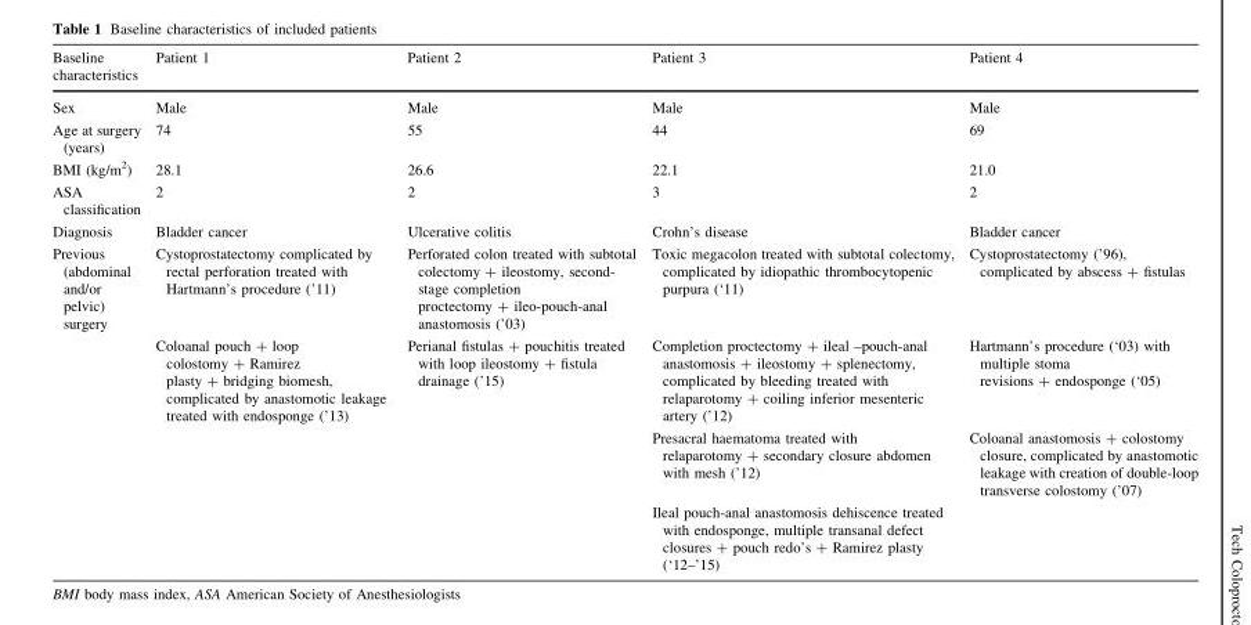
<table><thead><tr><td>Baseline characteristics</td><td>Patient 1</td><td>Patient 2</td><td>Patient 3</td><td>Patient 4</td></tr></thead><tbody><tr><td>Sex</td><td>Male</td><td>Male</td><td>Male</td><td>Male</td></tr><tr><td>Age at surgery (years)</td><td>74</td><td>55</td><td>44</td><td>69</td></tr><tr><td>BMI (kg/m<sup>2</sup>)</td><td>28.1</td><td>26.6</td><td>22.1</td><td>21.0</td></tr><tr><td>ASA classification</td><td>2</td><td>2</td><td>3</td><td>2</td></tr><tr><td>Diagnosis</td><td>Bladder cancer</td><td>Ulcerative colitis</td><td>Crohn’s disease</td><td>Bladder cancer</td></tr><tr><td rowspan="4">Previous (abdominal and/or pelvic) surgery</td><td>Cystoprostatectomy complicated by rectal perforation treated with Hartmann’s procedure (’11)</td><td>Perforated colon treated with subtotal colectomy + ileostomy, second- stage completion proctectomy + ileo-pouch-anal anastomosis (’03)</td><td>Toxic megacolon treated with subtotal colectomy, complicated by idiopathic thrombocytopenic purpura (‘11)</td><td>Cystoprostatectomy (’96), complicated by abscess + fistulas</td></tr><tr><td>Coloanal pouch + loop colostomy + Ramirez plasty + bridging biomesh, complicated by anastomotic leakage treated with endosponge (’13)</td><td>Perianal fistulas + pouchitis treated with loop ileostomy + fistula drainage (’15)</td><td>Completion proctectomy + ileal –pouch-anal anastomosis + ileostomy + splenectomy, complicated by bleeding treated with relaparotomy + coiling inferior mesenteric artery (’12)</td><td>Hartmann’s procedure (‘03) with multiple stoma revisions + endosponge (‘05)</td></tr><tr><td></td><td></td><td>Presacral haematoma treated with relaparotomy + secondary closure abdomen with mesh (’12)</td><td>Coloanal anastomosis + colostomy closure, complicated by anastomotic leakage with creation of double-loop transverse colostomy (’07)</td></tr><tr><td></td><td></td><td>Ileal pouch-anal anastomosis dehiscence treated with endosponge, multiple transanal defect closures + pouch redo’s + Ramirez plasty (‘12–’15)</td><td></td></tr></tbody></table>